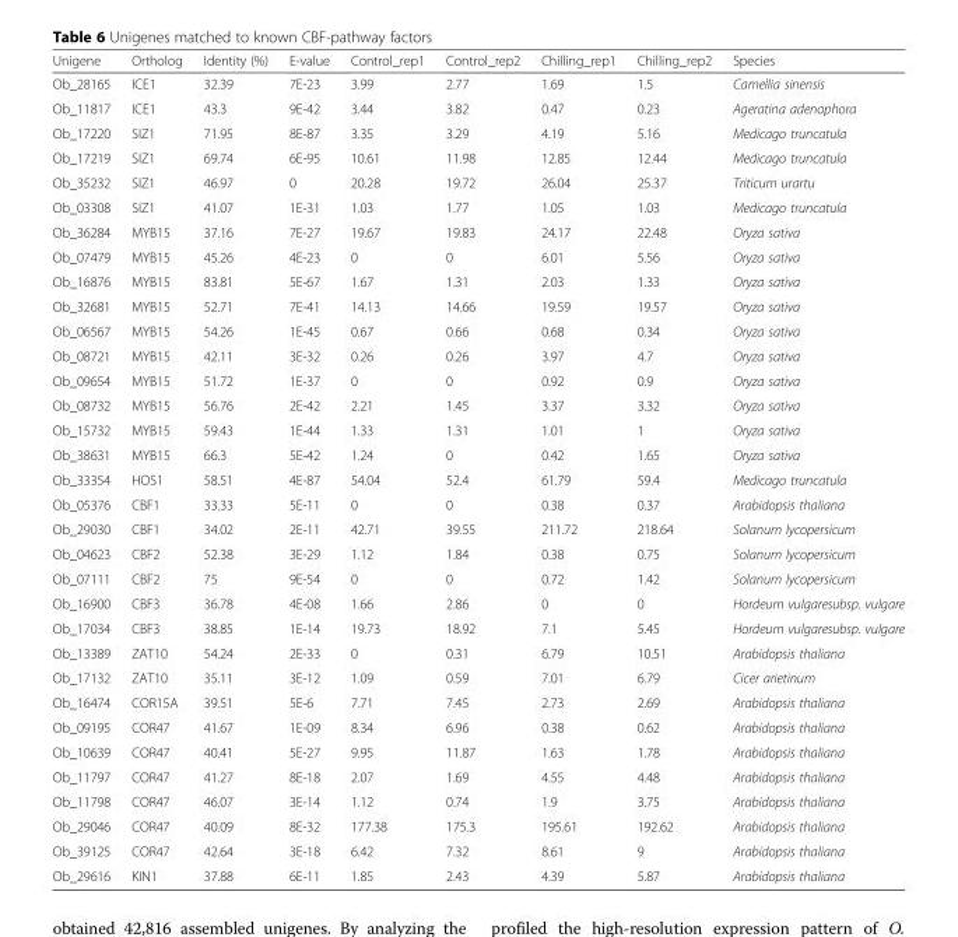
<table><thead><tr><td>Unigene</td><td>Ortholog</td><td>Identity (%)</td><td>E-value</td><td>Control_rep1</td><td>Control_rep2</td><td>Chilling_rep1</td><td>Chilling_rep2</td><td>Species</td></tr></thead><tbody><tr><td>Ob_28165</td><td>ICE1</td><td>32.39</td><td>7E-23</td><td>3.99</td><td>2.77</td><td>1.69</td><td>1.5</td><td>Camellia sinensis</td></tr><tr><td>Ob_11817</td><td>ICE1</td><td>43.3</td><td>9E-42</td><td>3.44</td><td>3.82</td><td>0.47</td><td>0.23</td><td>Ageratina adenophora</td></tr><tr><td>Ob_17220</td><td>SIZ1</td><td>71.95</td><td>8E-87</td><td>3.35</td><td>3.29</td><td>4.19</td><td>5.16</td><td>Medicago truncatula</td></tr><tr><td>Ob_17219</td><td>SIZ1</td><td>69.74</td><td>6E-95</td><td>10.61</td><td>11.98</td><td>12.85</td><td>12.44</td><td>Medicago truncatula</td></tr><tr><td>Ob_35232</td><td>SIZ1</td><td>46.97</td><td>0</td><td>20.28</td><td>19.72</td><td>26.04</td><td>25.37</td><td>Triticum urartu</td></tr><tr><td>Ob_03308</td><td>SIZ1</td><td>41.07</td><td>1E-31</td><td>1.03</td><td>1.77</td><td>1.05</td><td>1.03</td><td>Medicago truncatula</td></tr><tr><td>Ob_36284</td><td>MYB15</td><td>37.16</td><td>7E-27</td><td>19.67</td><td>19.83</td><td>24.17</td><td>22.48</td><td>Oryza sativa</td></tr><tr><td>Ob_07479</td><td>MYB15</td><td>45.26</td><td>4E-23</td><td>0</td><td>0</td><td>6.01</td><td>5.56</td><td>Oryza sativa</td></tr><tr><td>Ob_16876</td><td>MYB15</td><td>83.81</td><td>5E-67</td><td>1.67</td><td>1.31</td><td>2.03</td><td>1.33</td><td>Oryza sativa</td></tr><tr><td>Ob_32681</td><td>MYB15</td><td>52.71</td><td>7E-41</td><td>14.13</td><td>14.66</td><td>19.59</td><td>19.57</td><td>Oryza sativa</td></tr><tr><td>Ob_06567</td><td>MYB15</td><td>54.26</td><td>1E-45</td><td>0.67</td><td>0.66</td><td>0.68</td><td>0.34</td><td>Oryza sativa</td></tr><tr><td>Ob_08721</td><td>MYB15</td><td>42.11</td><td>3E-32</td><td>0.26</td><td>0.26</td><td>3.97</td><td>4.7</td><td>Oryza sativa</td></tr><tr><td>Ob_09654</td><td>MYB15</td><td>51.72</td><td>1E-37</td><td>0</td><td>0</td><td>0.92</td><td>0.9</td><td>Oryza sativa</td></tr><tr><td>Ob_08732</td><td>MYB15</td><td>56.76</td><td>2E-42</td><td>2.21</td><td>1.45</td><td>3.37</td><td>3.32</td><td>Oryza sativa</td></tr><tr><td>Ob_15732</td><td>MYB15</td><td>59.43</td><td>1E-44</td><td>1.33</td><td>1.31</td><td>1.01</td><td>1</td><td>Oryza sativa</td></tr><tr><td>Ob_38631</td><td>MYB15</td><td>66.3</td><td>5E-42</td><td>1.24</td><td>0</td><td>0.42</td><td>1.65</td><td>Oryza sativa</td></tr><tr><td>Ob_33354</td><td>HOS1</td><td>58.51</td><td>4E-87</td><td>54.04</td><td>52.4</td><td>61.79</td><td>59.4</td><td>Medicago truncatula</td></tr><tr><td>Ob_05376</td><td>CBF1</td><td>33.33</td><td>5E-11</td><td>0</td><td>0</td><td>0.38</td><td>0.37</td><td>Arabidopsis thaliana</td></tr><tr><td>Ob_29030</td><td>CBF1</td><td>34.02</td><td>2E-11</td><td>42.71</td><td>39.55</td><td>211.72</td><td>218.64</td><td>Solanum lycopersicum</td></tr><tr><td>Ob_04623</td><td>CBF2</td><td>52.38</td><td>3E-29</td><td>1.12</td><td>1.84</td><td>0.38</td><td>0.75</td><td>Solanum lycopersicum</td></tr><tr><td>Ob_07111</td><td>CBF2</td><td>75</td><td>9E-54</td><td>0</td><td>0</td><td>0.72</td><td>1.42</td><td>Solanum lycopersicum</td></tr><tr><td>Ob_16900</td><td>CBF3</td><td>36.78</td><td>4E-08</td><td>1.66</td><td>2.86</td><td>0</td><td>0</td><td>Hordeum vulgaresubsp. vulgare</td></tr><tr><td>Ob_17034</td><td>CBF3</td><td>38.85</td><td>1E-14</td><td>19.73</td><td>18.92</td><td>7.1</td><td>5.45</td><td>Hordeum vulgaresubsp. vulgare</td></tr><tr><td>Ob_13389</td><td>ZAT10</td><td>54.24</td><td>2E-33</td><td>0</td><td>0.31</td><td>6.79</td><td>10.51</td><td>Arabidopsis thaliana</td></tr><tr><td>Ob_17132</td><td>ZAT10</td><td>35.11</td><td>3E-12</td><td>1.09</td><td>0.59</td><td>7.01</td><td>6.79</td><td>Cicer arietinum</td></tr><tr><td>Ob_16474</td><td>COR15A</td><td>39.51</td><td>5E-6</td><td>7.71</td><td>7.45</td><td>2.73</td><td>2.69</td><td>Arabidopsis thaliana</td></tr><tr><td>Ob_09195</td><td>COR47</td><td>41.67</td><td>1E-09</td><td>8.34</td><td>6.96</td><td>0.38</td><td>0.62</td><td>Arabidopsis thaliana</td></tr><tr><td>Ob_10639</td><td>COR47</td><td>40.41</td><td>5E-27</td><td>9.95</td><td>11.87</td><td>1.63</td><td>1.78</td><td>Arabidopsis thaliana</td></tr><tr><td>Ob_11797</td><td>COR47</td><td>41.27</td><td>8E-18</td><td>2.07</td><td>1.69</td><td>4.55</td><td>4.48</td><td>Arabidopsis thaliana</td></tr><tr><td>Ob_11798</td><td>COR47</td><td>46.07</td><td>3E-14</td><td>1.12</td><td>0.74</td><td>1.9</td><td>3.75</td><td>Arabidopsis thaliana</td></tr><tr><td>Ob_29046</td><td>COR47</td><td>40.09</td><td>8E-32</td><td>177.38</td><td>175.3</td><td>195.61</td><td>192.62</td><td>Arabidopsis thaliana</td></tr><tr><td>Ob_39125</td><td>COR47</td><td>42.64</td><td>3E-18</td><td>6.42</td><td>7.32</td><td>8.61</td><td>9</td><td>Arabidopsis thaliana</td></tr><tr><td>Ob_29616</td><td>KIN1</td><td>37.88</td><td>6E-11</td><td>1.85</td><td>2.43</td><td>4.39</td><td>5.87</td><td>Arabidopsis thaliana</td></tr></tbody></table>